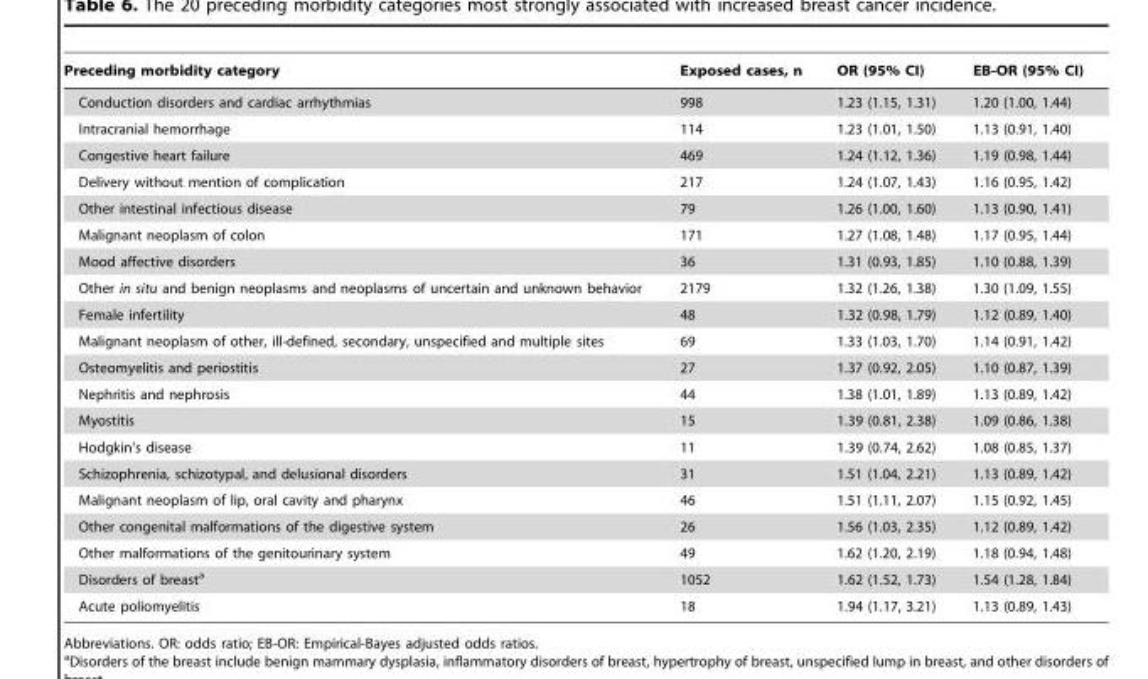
<table><thead><tr><td>Preceding morbidity category</td><td>Exposed cases, n</td><td>OR (95% CI)</td><td>EB-OR (95% CI)</td></tr></thead><tbody><tr><td>Conduction disorders and cardiac arrhythmias</td><td>998</td><td>1.23 (1.15, 1.31)</td><td>1.20 (1.00, 1.44)</td></tr><tr><td>Intracranial hemorrhage</td><td>114</td><td>1.23 (1.01, 1.50)</td><td>1.13 (0.91, 1.40)</td></tr><tr><td>Congestive heart failure</td><td>469</td><td>1.24 (1.12, 1.36)</td><td>1.19 (0.98, 1.44)</td></tr><tr><td>Delivery without mention of complication</td><td>217</td><td>1.24 (1.07, 1.43)</td><td>1.16 (0.95, 1.42)</td></tr><tr><td>Other intestinal infectious disease</td><td>79</td><td>1.26 (1.00, 1.60)</td><td>1.13 (0.90, 1.41)</td></tr><tr><td>Malignant neoplasm of colon</td><td>171</td><td>1.27 (1.08, 1.48)</td><td>1.17 (0.95, 1.44)</td></tr><tr><td>Mood affective disorders</td><td>36</td><td>1.31 (0.93, 1.85)</td><td>1.10 (0.88, 1.39)</td></tr><tr><td>Other in situ and benign neoplasms and neoplasms of uncertain and unknown behavior</td><td>2179</td><td>1.32 (1.26, 1.38)</td><td>1.30 (1.09, 1.55)</td></tr><tr><td>Female infertility</td><td>48</td><td>1.32 (0.98, 1.79)</td><td>1.12 (0.89, 1.40)</td></tr><tr><td>Malignant neoplasm of other, ill-defined, secondary, unspecified and multiple sites</td><td>69</td><td>1.33 (1.03, 1.70)</td><td>1.14 (0.91, 1.42)</td></tr><tr><td>Osteomyelitis and periostitis</td><td>27</td><td>1.37 (0.92, 2.05)</td><td>1.10 (0.87, 1.39)</td></tr><tr><td>Nephritis and nephrosis</td><td>44</td><td>1.38 (1.01, 1.89)</td><td>1.13 (0.89, 1.42)</td></tr><tr><td>Myostitis</td><td>15</td><td>1.39 (0.81, 2.38)</td><td>1.09 (0.86, 1.38)</td></tr><tr><td>Hodgkin’s disease</td><td>11</td><td>1.39 (0.74, 2.62)</td><td>1.08 (0.85, 1.37)</td></tr><tr><td>Schizophrenia, schizotypal, and delusional disorders</td><td>31</td><td>1.51 (1.04, 2.21)</td><td>1.13 (0.89, 1.42)</td></tr><tr><td>Malignant neoplasm of lip, oral cavity and pharynx</td><td>46</td><td>1.51 (1.11, 2.07)</td><td>1.15 (0.92, 1.45)</td></tr><tr><td>Other congenital malformations of the digestive system</td><td>26</td><td>1.56 (1.03, 2.35)</td><td>1.12 (0.89, 1.42)</td></tr><tr><td>Other malformations of the genitourinary system</td><td>49</td><td>1.62 (1.20, 2.19)</td><td>1.18 (0.94, 1.48)</td></tr><tr><td>Disorders of breast<sup>a</sup></td><td>1052</td><td>1.62 (1.52, 1.73)</td><td>1.54 (1.28, 1.84)</td></tr><tr><td>Acute poliomyelitis</td><td>18</td><td>1.94 (1.17, 3.21)</td><td>1.13 (0.89, 1.43)</td></tr></tbody></table>